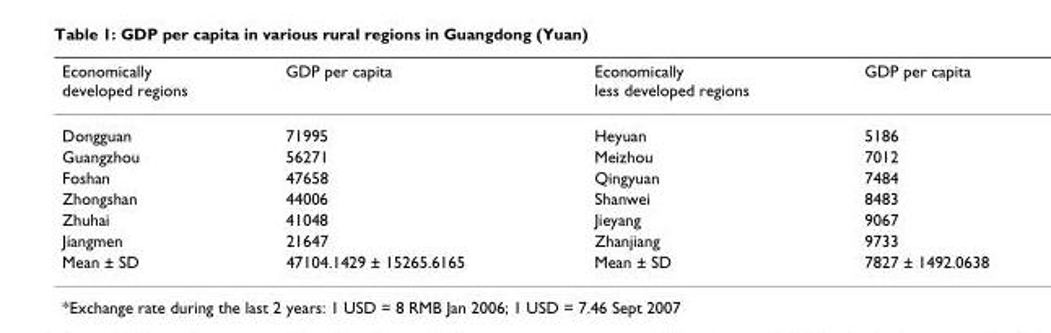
<table><thead><tr><td>Economically developed regions</td><td>GDP per capita</td><td>Economically less developed regions</td><td>GDP per capita</td></tr></thead><tbody><tr><td>Dongguan</td><td>71995</td><td>Heyuan</td><td>5186</td></tr><tr><td>Guangzhou</td><td>56271</td><td>Meizhou</td><td>7012</td></tr><tr><td>Foshan</td><td>47658</td><td>Qingyuan</td><td>7484</td></tr><tr><td>Zhongshan</td><td>44006</td><td>Shanwei</td><td>8483</td></tr><tr><td>Zhuhai</td><td>41048</td><td>Jieyang</td><td>9067</td></tr><tr><td>Jiangmen</td><td>21647</td><td>Zhanjiang</td><td>9733</td></tr><tr><td>Mean ± SD</td><td>47104.1429 ± 15265.6165</td><td>Mean ± SD</td><td>7827 ± 1492.0638</td></tr></tbody></table>